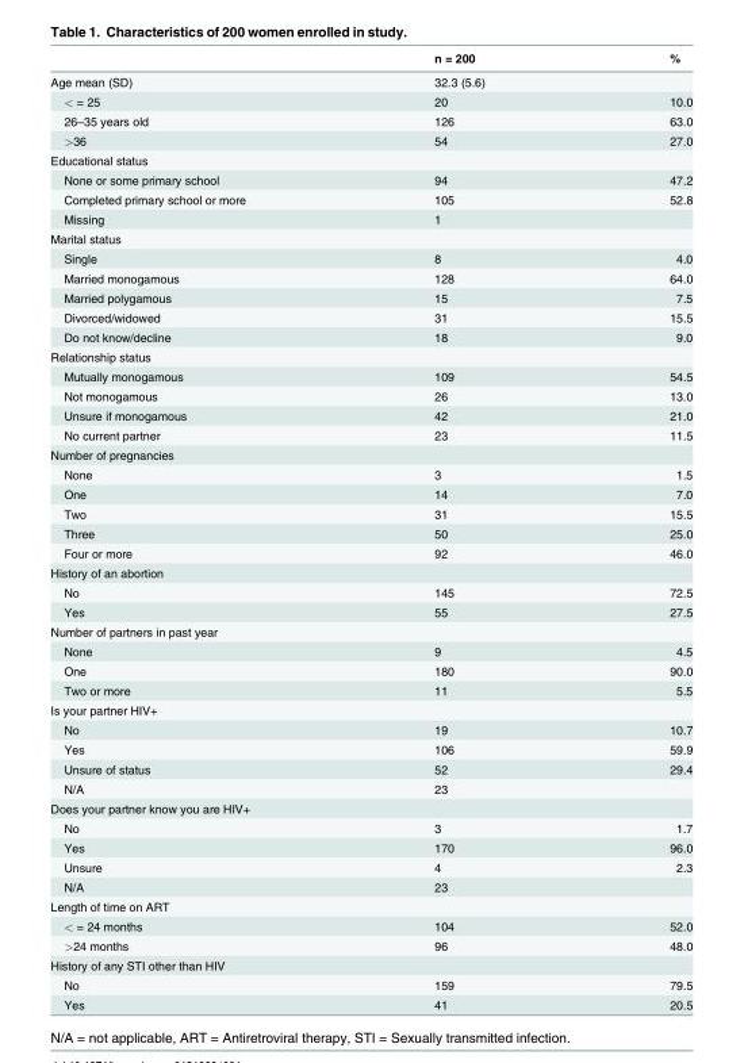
<table><thead><tr><td></td><td>n = 200</td><td>%</td></tr></thead><tbody><tr><td>Age mean (SD)</td><td>32.3 (5.6)</td><td></td></tr><tr><td>&lt; = 25</td><td>20</td><td>10.0</td></tr><tr><td>26–35 years old</td><td>126</td><td>63.0</td></tr><tr><td>&gt;36</td><td>54</td><td>27.0</td></tr><tr><td colspan="3">Educational status</td></tr><tr><td>None or some primary school</td><td>94</td><td>47.2</td></tr><tr><td>Completed primary school or more</td><td>105</td><td>52.8</td></tr><tr><td>Missing</td><td>1</td><td></td></tr><tr><td colspan="3">Marital status</td></tr><tr><td>Single</td><td>8</td><td>4.0</td></tr><tr><td>Married monogamous</td><td>128</td><td>64.0</td></tr><tr><td>Married polygamous</td><td>15</td><td>7.5</td></tr><tr><td>Divorced/widowed</td><td>31</td><td>15.5</td></tr><tr><td>Do not know/decline</td><td>18</td><td>9.0</td></tr><tr><td colspan="3">Relationship status</td></tr><tr><td>Mutually monogamous</td><td>109</td><td>54.5</td></tr><tr><td>Not monogamous</td><td>26</td><td>13.0</td></tr><tr><td>Unsure if monogamous</td><td>42</td><td>21.0</td></tr><tr><td>No current partner</td><td>23</td><td>11.5</td></tr><tr><td colspan="3">Number of pregnancies</td></tr><tr><td>None</td><td>3</td><td>1.5</td></tr><tr><td>One</td><td>14</td><td>7.0</td></tr><tr><td>Two</td><td>31</td><td>15.5</td></tr><tr><td>Three</td><td>50</td><td>25.0</td></tr><tr><td>Four or more</td><td>92</td><td>46.0</td></tr><tr><td colspan="3">History of an abortion</td></tr><tr><td>No</td><td>145</td><td>72.5</td></tr><tr><td>Yes</td><td>55</td><td>27.5</td></tr><tr><td colspan="3">Number of partners in past year</td></tr><tr><td>None</td><td>9</td><td>4.5</td></tr><tr><td>One</td><td>180</td><td>90.0</td></tr><tr><td>Two or more</td><td>11</td><td>5.5</td></tr><tr><td colspan="3">Is your partner HIV+</td></tr><tr><td>No</td><td>19</td><td>10.7</td></tr><tr><td>Yes</td><td>106</td><td>59.9</td></tr><tr><td>Unsure of status</td><td>52</td><td>29.4</td></tr><tr><td>N/A</td><td>23</td><td></td></tr><tr><td colspan="3">Does your partner know you are HIV+</td></tr><tr><td>No</td><td>3</td><td>1.7</td></tr><tr><td>Yes</td><td>170</td><td>96.0</td></tr><tr><td>Unsure</td><td>4</td><td>2.3</td></tr><tr><td>N/A</td><td>23</td><td></td></tr><tr><td colspan="3">Length of time on ART</td></tr><tr><td>&lt; = 24 months</td><td>104</td><td>52.0</td></tr><tr><td>&gt;24 months</td><td>96</td><td>48.0</td></tr><tr><td colspan="3">History of any STI other than HIV</td></tr><tr><td>No</td><td>159</td><td>79.5</td></tr><tr><td>Yes</td><td>41</td><td>20.5</td></tr></tbody></table>